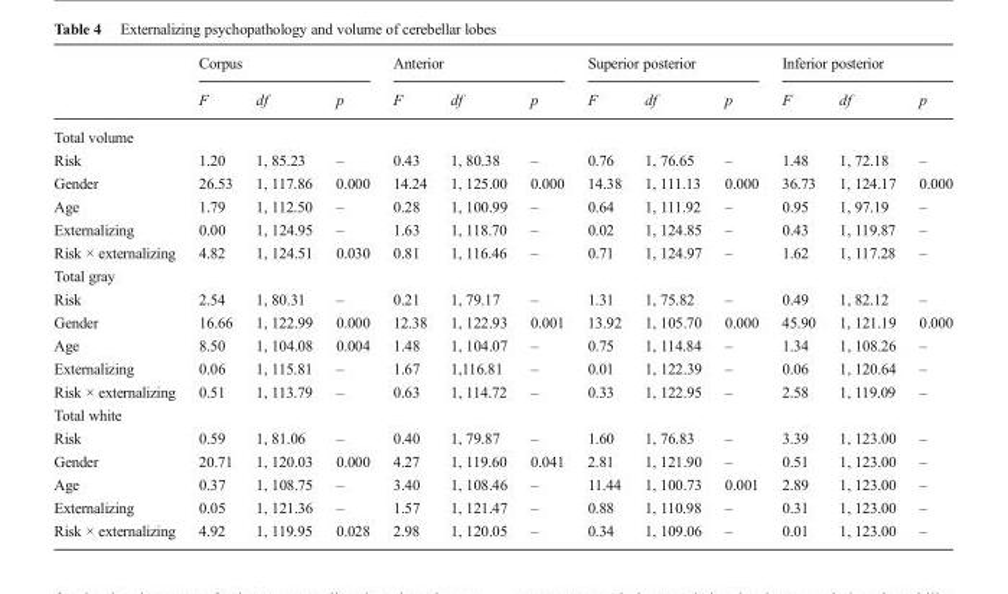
<table><thead><tr><td rowspan="2"></td><td colspan="3">Corpus</td><td colspan="3">Anterior</td><td colspan="3">Superior posterior</td><td colspan="3">Inferior posterior</td></tr><tr><td>F</td><td>df</td><td>p</td><td>F</td><td>df</td><td>p</td><td>F</td><td>df</td><td>p</td><td>F</td><td>df</td><td>p</td></tr></thead><tbody><tr><td colspan="13">Total volume</td></tr><tr><td>Risk</td><td>1.20</td><td>1, 85.23</td><td>–</td><td>0.43</td><td>1, 80.38</td><td>–</td><td>0.76</td><td>1, 76.65</td><td>–</td><td>1.48</td><td>1, 72.18</td><td>–</td></tr><tr><td>Gender</td><td>26.53</td><td>1, 117.86</td><td>0.000</td><td>14.24</td><td>1, 125.00</td><td>0.000</td><td>14.38</td><td>1, 111.13</td><td>0.000</td><td>36.73</td><td>1, 124.17</td><td>0.000</td></tr><tr><td>Age</td><td>1.79</td><td>1, 112.50</td><td>–</td><td>0.28</td><td>1, 100.99</td><td>–</td><td>0.64</td><td>1, 111.92</td><td>–</td><td>0.95</td><td>1, 97.19</td><td>–</td></tr><tr><td>Externalizing</td><td>0.00</td><td>1, 124.95</td><td>–</td><td>1.63</td><td>1, 118.70</td><td>–</td><td>0.02</td><td>1, 124.85</td><td>–</td><td>0.43</td><td>1, 119.87</td><td>–</td></tr><tr><td>Risk × externalizing</td><td>4.82</td><td>1, 124.51</td><td>0.030</td><td>0.81</td><td>1, 116.46</td><td>–</td><td>0.71</td><td>1, 124.97</td><td>–</td><td>1.62</td><td>1, 117.28</td><td>–</td></tr><tr><td colspan="13">Total gray</td></tr><tr><td>Risk</td><td>2.54</td><td>1, 80.31</td><td>–</td><td>0.21</td><td>1, 79.17</td><td>–</td><td>1.31</td><td>1, 75.82</td><td>–</td><td>0.49</td><td>1, 82.12</td><td>–</td></tr><tr><td>Gender</td><td>16.66</td><td>1, 122.99</td><td>0.000</td><td>12.38</td><td>1, 122.93</td><td>0.001</td><td>13.92</td><td>1, 105.70</td><td>0.000</td><td>45.90</td><td>1, 121.19</td><td>0.000</td></tr><tr><td>Age</td><td>8.50</td><td>1, 104.08</td><td>0.004</td><td>1.48</td><td>1, 104.07</td><td>–</td><td>0.75</td><td>1, 114.84</td><td>–</td><td>1.34</td><td>1, 108.26</td><td>–</td></tr><tr><td>Externalizing</td><td>0.06</td><td>1, 115.81</td><td>–</td><td>1.67</td><td>1,116.81</td><td>–</td><td>0.01</td><td>1, 122.39</td><td>–</td><td>0.06</td><td>1, 120.64</td><td>–</td></tr><tr><td>Risk × externalizing</td><td>0.51</td><td>1, 113.79</td><td>–</td><td>0.63</td><td>1, 114.72</td><td>–</td><td>0.33</td><td>1, 122.95</td><td>–</td><td>2.58</td><td>1, 119.09</td><td>–</td></tr><tr><td colspan="13">Total white</td></tr><tr><td>Risk</td><td>0.59</td><td>1, 81.06</td><td>–</td><td>0.40</td><td>1, 79.87</td><td>–</td><td>1.60</td><td>1, 76.83</td><td>–</td><td>3.39</td><td>1, 123.00</td><td>–</td></tr><tr><td>Gender</td><td>20.71</td><td>1, 120.03</td><td>0.000</td><td>4.27</td><td>1, 119.60</td><td>0.041</td><td>2.81</td><td>1, 121.90</td><td>–</td><td>0.51</td><td>1, 123.00</td><td>–</td></tr><tr><td>Age</td><td>0.37</td><td>1, 108.75</td><td>–</td><td>3.40</td><td>1, 108.46</td><td>–</td><td>11.44</td><td>1, 100.73</td><td>0.001</td><td>2.89</td><td>1, 123.00</td><td>–</td></tr><tr><td>Externalizing</td><td>0.05</td><td>1, 121.36</td><td>–</td><td>1.57</td><td>1, 121.47</td><td>–</td><td>0.88</td><td>1, 110.98</td><td>–</td><td>0.31</td><td>1, 123.00</td><td>–</td></tr><tr><td>Risk × externalizing</td><td>4.92</td><td>1, 119.95</td><td>0.028</td><td>2.98</td><td>1, 120.05</td><td>–</td><td>0.34</td><td>1, 109.06</td><td>–</td><td>0.01</td><td>1, 123.00</td><td>–</td></tr></tbody></table>